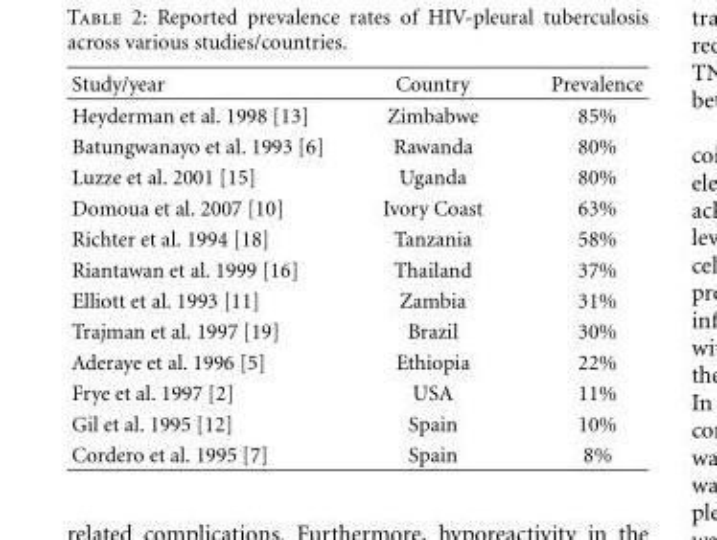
<table><thead><tr><td>Study/year</td><td>Country</td><td>Prevalence</td></tr></thead><tbody><tr><td>Heyderman et al. 1998 [13]</td><td>Zimbabwe</td><td>85%</td></tr><tr><td>Batungwanayo et al. 1993 [6]</td><td>Rawanda</td><td>80%</td></tr><tr><td>Luzze et al. 2001 [15]</td><td>Uganda</td><td>80%</td></tr><tr><td>Domoua et al. 2007 [10]</td><td>Ivory Coast</td><td>63%</td></tr><tr><td>Richter et al. 1994 [18]</td><td>Tanzania</td><td>58%</td></tr><tr><td>Riantawan et al. 1999 [16]</td><td>Thailand</td><td>37%</td></tr><tr><td>Elliott et al. 1993 [11]</td><td>Zambia</td><td>31%</td></tr><tr><td>Trajman et al. 1997 [19]</td><td>Brazil</td><td>30%</td></tr><tr><td>Aderaye et al. 1996 [5]</td><td>Ethiopia</td><td>22%</td></tr><tr><td>Frye et al. 1997 [2]</td><td>USA</td><td>11%</td></tr><tr><td>Gil et al. 1995 [12]</td><td>Spain</td><td>10%</td></tr><tr><td>Cordero et al. 1995 [7]</td><td>Spain</td><td>8%</td></tr></tbody></table>